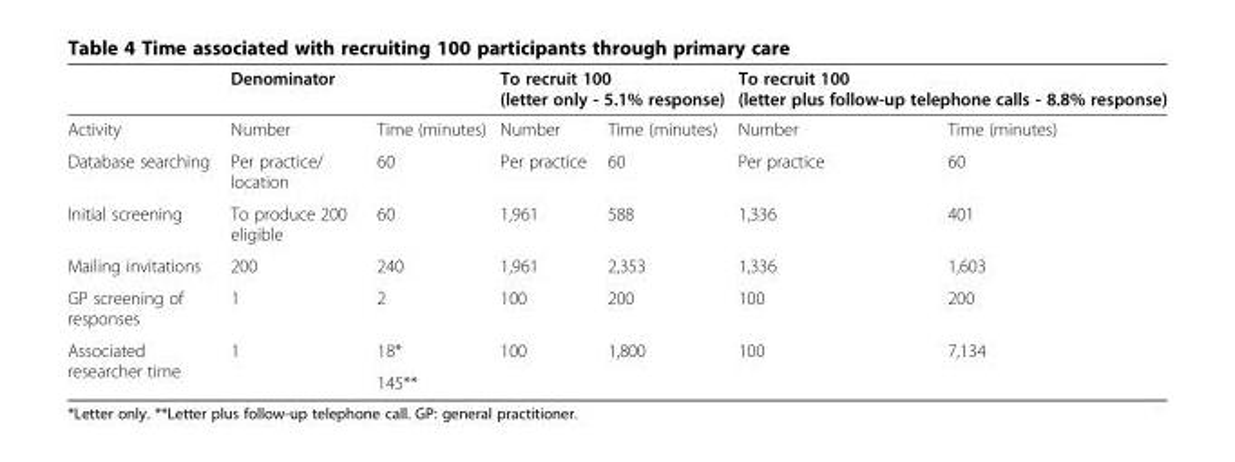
<table><thead><tr><td rowspan="2">Activity</td><td colspan="2">Denominator</td><td colspan="2">To recruit 100 (letter only - 5.1% response)</td><td colspan="2">To recruit 100 (letter plus follow-up telephone calls - 8.8% response)</td></tr><tr><td>Number</td><td>Time (minutes)</td><td>Number</td><td>Time (minutes)</td><td>Number</td><td>Time (minutes)</td></tr></thead><tbody><tr><td>Database searching</td><td>Per practice/ location</td><td>60</td><td>Per practice</td><td>60</td><td>Per practice</td><td>60</td></tr><tr><td>Initial screening</td><td>To produce 200 eligible</td><td>60</td><td>1,961</td><td>588</td><td>1,336</td><td>401</td></tr><tr><td>Mailing invitations</td><td>200</td><td>240</td><td>1,961</td><td>2,353</td><td>1,336</td><td>1,603</td></tr><tr><td>GP screening of responses</td><td>1</td><td>2</td><td>100</td><td>200</td><td>100</td><td>200</td></tr><tr><td rowspan="2">Associated researcher time</td><td rowspan="2">1</td><td>18*</td><td rowspan="2">100</td><td rowspan="2">1,800</td><td rowspan="2">100</td><td rowspan="2">7,134</td></tr><tr><td>145**</td></tr></tbody></table>